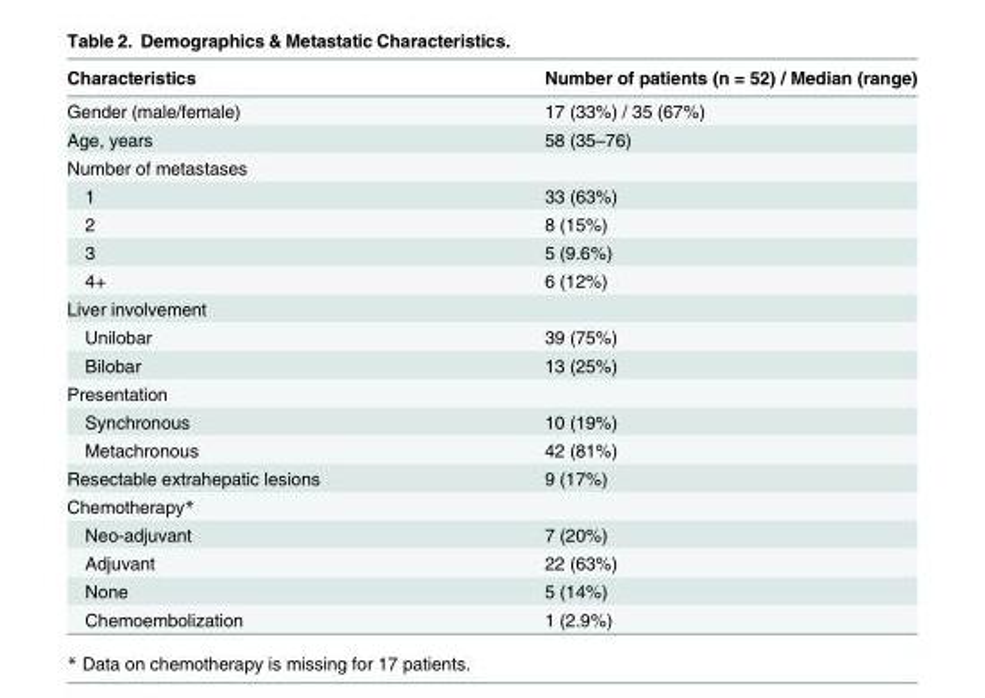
<table><thead><tr><td>Characteristics</td><td>Number of patients (n = 52) / Median (range)</td></tr></thead><tbody><tr><td>Gender (male/female)</td><td>17 (33%) / 35 (67%)</td></tr><tr><td>Age, years</td><td>58 (35–76)</td></tr><tr><td colspan="2">Number of metastases</td></tr><tr><td>1</td><td>33 (63%)</td></tr><tr><td>2</td><td>8 (15%)</td></tr><tr><td>3</td><td>5 (9.6%)</td></tr><tr><td>4+</td><td>6 (12%)</td></tr><tr><td colspan="2">Liver involvement</td></tr><tr><td>Unilobar</td><td>39 (75%)</td></tr><tr><td>Bilobar</td><td>13 (25%)</td></tr><tr><td colspan="2">Presentation</td></tr><tr><td>Synchronous</td><td>10 (19%)</td></tr><tr><td>Metachronous</td><td>42 (81%)</td></tr><tr><td>Resectable extrahepatic lesions</td><td>9 (17%)</td></tr><tr><td colspan="2">Chemotherapy*</td></tr><tr><td>Neo-adjuvant</td><td>7 (20%)</td></tr><tr><td>Adjuvant</td><td>22 (63%)</td></tr><tr><td>None</td><td>5 (14%)</td></tr><tr><td>Chemoembolization</td><td>1 (2.9%)</td></tr></tbody></table>